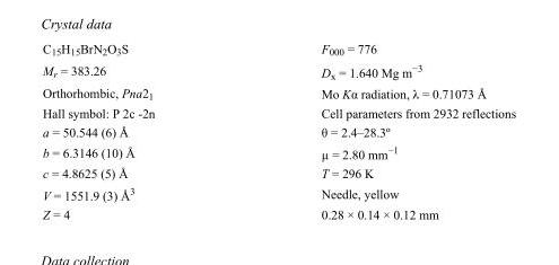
<table><tbody><tr><td>C<sub>15</sub>H<sub>15</sub>BrN<sub>2</sub>O<sub>3</sub>S</td><td>F000 = 776</td></tr><tr><td>M<sub>r</sub> = 383.26</td><td>D<sub>x</sub> = 1.640 Mg m<sup>−3</sup></td></tr><tr><td>Orthorhombic, Pna2<sub>1</sub></td><td>Mo Kα radiation, λ = 0.71073 Å</td></tr><tr><td>Hall symbol: P 2c -2n</td><td>Cell parameters from 2932 reflections</td></tr><tr><td>a = 50.544 (6) Å</td><td>θ = 2.4–28.3º</td></tr><tr><td>b = 6.3146 (10) Å</td><td>µ = 2.80 mm<sup>−1</sup></td></tr><tr><td>c = 4.8625 (5) Å</td><td>T = 296 K</td></tr><tr><td>V = 1551.9 (3) Å<sup>3</sup></td><td>Needle, yellow</td></tr><tr><td>Z = 4</td><td>0.28 × 0.14 × 0.12 mm</td></tr></tbody></table>